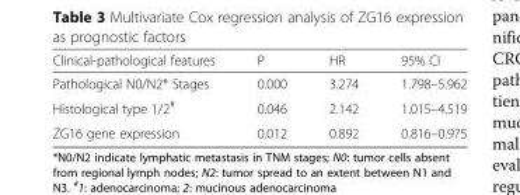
<table><thead><tr><td>Clinical-pathological features</td><td>P</td><td>HR</td><td>95% CI</td></tr></thead><tbody><tr><td>Pathological N0/N2* Stages</td><td>0.000</td><td>3.274</td><td>1.798–5.962</td></tr><tr><td>Histological type 1/2<sup>#</sup></td><td>0.046</td><td>2.142</td><td>1.015–4.519</td></tr><tr><td>ZG16 gene expression</td><td>0.012</td><td>0.892</td><td>0.816–0.975</td></tr></tbody></table>